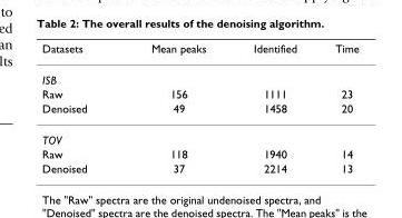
<table><thead><tr><td>Datasets</td><td>Mean peaks</td><td>Identified</td><td>Time</td></tr></thead><tbody><tr><td colspan="4">ISB</td></tr><tr><td>Raw</td><td>156</td><td>1111</td><td>23</td></tr><tr><td>Denoised</td><td>49</td><td>1458</td><td>20</td></tr><tr><td colspan="4">TOV</td></tr><tr><td>Raw</td><td>118</td><td>1940</td><td>14</td></tr><tr><td>Denoised</td><td>37</td><td>2214</td><td>13</td></tr></tbody></table>